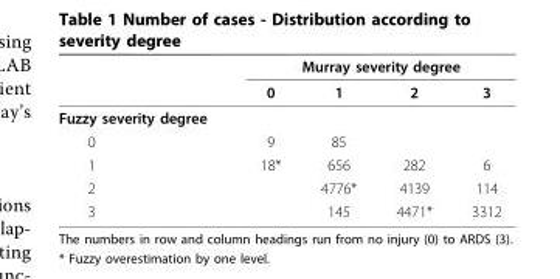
<table><thead><tr><td rowspan="2"></td><td colspan="4">Murray severity degree</td></tr><tr><td>0</td><td>1</td><td>2</td><td>3</td></tr></thead><tbody><tr><td colspan="5">Fuzzy severity degree</td></tr><tr><td>0</td><td>9</td><td>85</td><td></td><td></td></tr><tr><td>1</td><td>18*</td><td>656</td><td>282</td><td>6</td></tr><tr><td>2</td><td></td><td>4776*</td><td>4139</td><td>114</td></tr><tr><td>3</td><td></td><td>145</td><td>4471*</td><td>3312</td></tr></tbody></table>